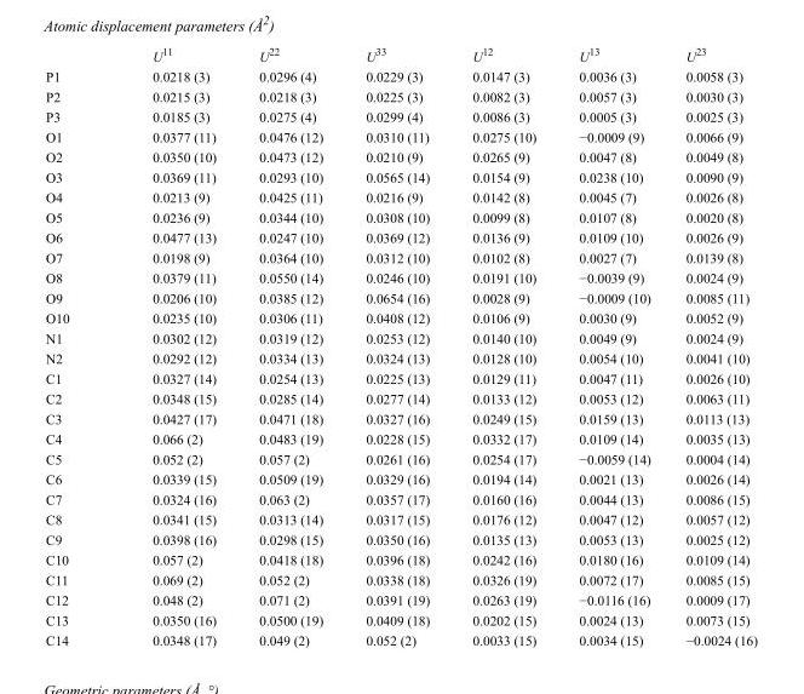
<table><thead><tr><td></td><td>U<sup>11</sup></td><td>U<sup>22</sup></td><td>U<sup>33</sup></td><td>U<sup>12</sup></td><td>U<sup>13</sup></td><td>U<sup>23</sup></td></tr></thead><tbody><tr><td>P1</td><td>0.0218 (3)</td><td>0.0296 (4)</td><td>0.0229 (3)</td><td>0.0147 (3)</td><td>0.0036 (3)</td><td>0.0058 (3)</td></tr><tr><td>P2</td><td>0.0215 (3)</td><td>0.0218 (3)</td><td>0.0225 (3)</td><td>0.0082 (3)</td><td>0.0057 (3)</td><td>0.0030 (3)</td></tr><tr><td>P3</td><td>0.0185 (3)</td><td>0.0275 (4)</td><td>0.0299 (4)</td><td>0.0086 (3)</td><td>0.0005 (3)</td><td>0.0025 (3)</td></tr><tr><td>O1</td><td>0.0377 (11)</td><td>0.0476 (12)</td><td>0.0310 (11)</td><td>0.0275 (10)</td><td>−0.0009 (9)</td><td>0.0066 (9)</td></tr><tr><td>O2</td><td>0.0350 (10)</td><td>0.0473 (12)</td><td>0.0210 (9)</td><td>0.0265 (9)</td><td>0.0047 (8)</td><td>0.0049 (8)</td></tr><tr><td>O3</td><td>0.0369 (11)</td><td>0.0293 (10)</td><td>0.0565 (14)</td><td>0.0154 (9)</td><td>0.0238 (10)</td><td>0.0090 (9)</td></tr><tr><td>O4</td><td>0.0213 (9)</td><td>0.0425 (11)</td><td>0.0216 (9)</td><td>0.0142 (8)</td><td>0.0045 (7)</td><td>0.0026 (8)</td></tr><tr><td>O5</td><td>0.0236 (9)</td><td>0.0344 (10)</td><td>0.0308 (10)</td><td>0.0099 (8)</td><td>0.0107 (8)</td><td>0.0020 (8)</td></tr><tr><td>O6</td><td>0.0477 (13)</td><td>0.0247 (10)</td><td>0.0369 (12)</td><td>0.0136 (9)</td><td>0.0109 (10)</td><td>0.0026 (9)</td></tr><tr><td>O7</td><td>0.0198 (9)</td><td>0.0364 (10)</td><td>0.0312 (10)</td><td>0.0102 (8)</td><td>0.0027 (7)</td><td>0.0139 (8)</td></tr><tr><td>O8</td><td>0.0379 (11)</td><td>0.0550 (14)</td><td>0.0246 (10)</td><td>0.0191 (10)</td><td>−0.0039 (9)</td><td>0.0024 (9)</td></tr><tr><td>O9</td><td>0.0206 (10)</td><td>0.0385 (12)</td><td>0.0654 (16)</td><td>0.0028 (9)</td><td>−0.0009 (10)</td><td>0.0085 (11)</td></tr><tr><td>O10</td><td>0.0235 (10)</td><td>0.0306 (11)</td><td>0.0408 (12)</td><td>0.0106 (9)</td><td>0.0030 (9)</td><td>0.0052 (9)</td></tr><tr><td>N1</td><td>0.0302 (12)</td><td>0.0319 (12)</td><td>0.0253 (12)</td><td>0.0140 (10)</td><td>0.0049 (9)</td><td>0.0024 (9)</td></tr><tr><td>N2</td><td>0.0292 (12)</td><td>0.0334 (13)</td><td>0.0324 (13)</td><td>0.0128 (10)</td><td>0.0054 (10)</td><td>0.0041 (10)</td></tr><tr><td>C1</td><td>0.0327 (14)</td><td>0.0254 (13)</td><td>0.0225 (13)</td><td>0.0129 (11)</td><td>0.0047 (11)</td><td>0.0026 (10)</td></tr><tr><td>C2</td><td>0.0348 (15)</td><td>0.0285 (14)</td><td>0.0277 (14)</td><td>0.0133 (12)</td><td>0.0053 (12)</td><td>0.0063 (11)</td></tr><tr><td>C3</td><td>0.0427 (17)</td><td>0.0471 (18)</td><td>0.0327 (16)</td><td>0.0249 (15)</td><td>0.0159 (13)</td><td>0.0113 (13)</td></tr><tr><td>C4</td><td>0.066 (2)</td><td>0.0483 (19)</td><td>0.0228 (15)</td><td>0.0332 (17)</td><td>0.0109 (14)</td><td>0.0035 (13)</td></tr><tr><td>C5</td><td>0.052 (2)</td><td>0.057 (2)</td><td>0.0261 (16)</td><td>0.0254 (17)</td><td>−0.0059 (14)</td><td>0.0004 (14)</td></tr><tr><td>C6</td><td>0.0339 (15)</td><td>0.0509 (19)</td><td>0.0329 (16)</td><td>0.0194 (14)</td><td>0.0021 (13)</td><td>0.0026 (14)</td></tr><tr><td>C7</td><td>0.0324 (16)</td><td>0.063 (2)</td><td>0.0357 (17)</td><td>0.0160 (16)</td><td>0.0044 (13)</td><td>0.0086 (15)</td></tr><tr><td>C8</td><td>0.0341 (15)</td><td>0.0313 (14)</td><td>0.0317 (15)</td><td>0.0176 (12)</td><td>0.0047 (12)</td><td>0.0057 (12)</td></tr><tr><td>C9</td><td>0.0398 (16)</td><td>0.0298 (15)</td><td>0.0350 (16)</td><td>0.0135 (13)</td><td>0.0053 (13)</td><td>0.0025 (12)</td></tr><tr><td>C10</td><td>0.057 (2)</td><td>0.0418 (18)</td><td>0.0396 (18)</td><td>0.0242 (16)</td><td>0.0180 (16)</td><td>0.0109 (14)</td></tr><tr><td>C11</td><td>0.069 (2)</td><td>0.052 (2)</td><td>0.0338 (18)</td><td>0.0326 (19)</td><td>0.0072 (17)</td><td>0.0085 (15)</td></tr><tr><td>C12</td><td>0.048 (2)</td><td>0.071 (2)</td><td>0.0391 (19)</td><td>0.0263 (19)</td><td>−0.0116 (16)</td><td>0.0009 (17)</td></tr><tr><td>C13</td><td>0.0350 (16)</td><td>0.0500 (19)</td><td>0.0409 (18)</td><td>0.0202 (15)</td><td>0.0024 (13)</td><td>0.0073 (15)</td></tr><tr><td>C14</td><td>0.0348 (17)</td><td>0.049 (2)</td><td>0.052 (2)</td><td>0.0033 (15)</td><td>0.0034 (15)</td><td>−0.0024 (16)</td></tr></tbody></table>